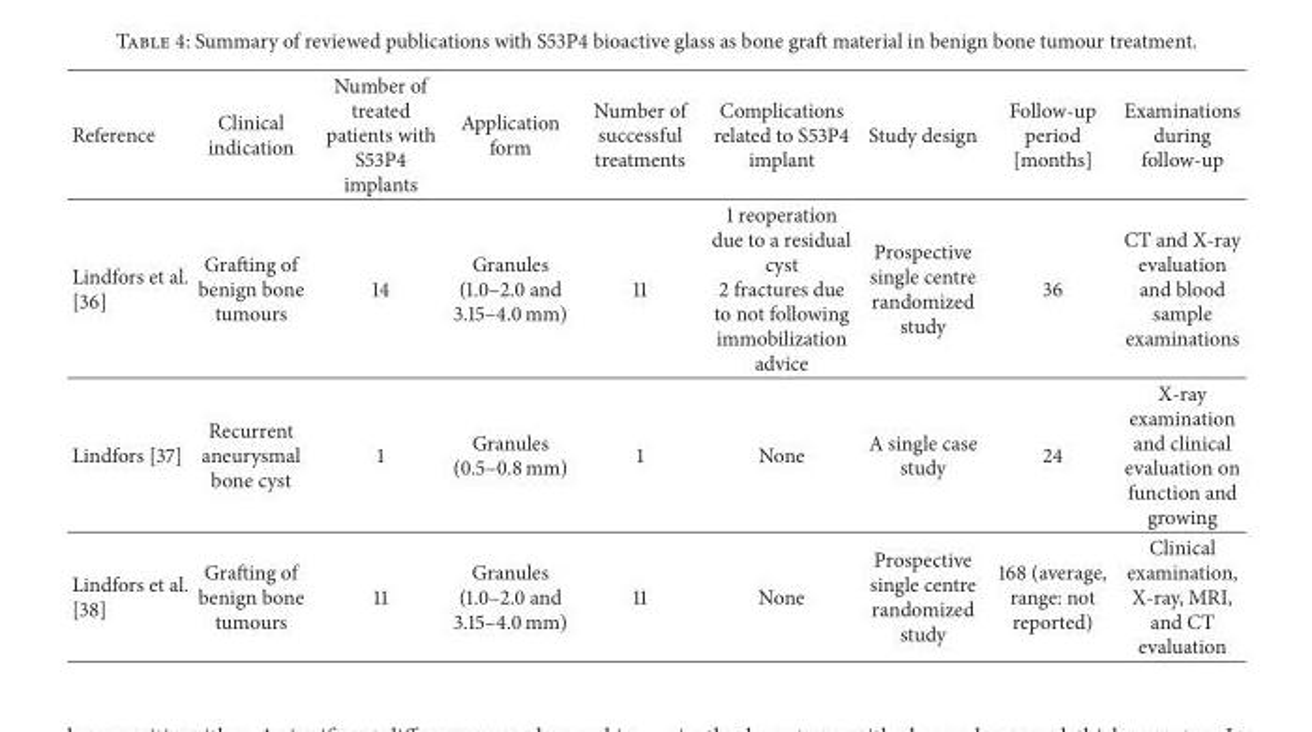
<table><thead><tr><td>Reference</td><td>Clinical indication</td><td>Number of treated patients with S53P4 implants</td><td>Application form</td><td>Number of successful treatments</td><td>Complications related to S53P4 implant</td><td>Study design</td><td>Follow-up period [months]</td><td>Examinations during follow-up</td></tr></thead><tbody><tr><td>Lindfors et al. [36]</td><td>Grafting of benign bone tumours</td><td>14</td><td>Granules (1.0–2.0 and 3.15–4.0 mm)</td><td>11</td><td>1 reoperation due to a residual cyst 2 fractures due to not following immobilization advice</td><td>Prospective single centre randomized study</td><td>36</td><td>CT and X-ray evaluation and blood sample examinations</td></tr><tr><td>Lindfors [37]</td><td>Recurrent aneurysmal bone cyst</td><td>1</td><td>Granules (0.5–0.8 mm)</td><td>1</td><td>None</td><td>A single case study</td><td>24</td><td>X-ray examination and clinical evaluation on function and growing</td></tr><tr><td>Lindfors et al. [38]</td><td>Grafting of benign bone tumours</td><td>11</td><td>Granules (1.0–2.0 and 3.15–4.0 mm)</td><td>11</td><td>None</td><td>Prospective single centre randomized study</td><td>168 (average, range: not reported)</td><td>Clinical examination, X-ray, MRI, and CT evaluation</td></tr></tbody></table>